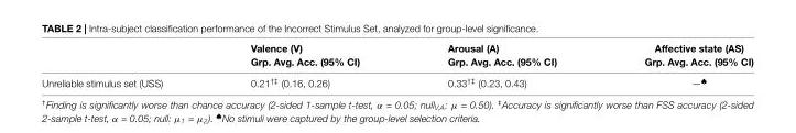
<table><thead><tr><td rowspan="2"></td><td rowspan="2">Valence (V) Grp. Avg. Acc. (95% CI)</td><td rowspan="2">Arousal (A) Grp. Avg. Acc. (95% CI)</td><td rowspan="2">Affective state (AS) Grp. Avg. Acc. (95% CI)</td></tr><tr></tr></thead><tbody><tr><td>Unreliable stimulus set (USS)</td><td>0.21<sup>†‡</sup> (0.16, 0.26)</td><td>0.33<sup>†‡</sup> (0.23, 0.43)</td><td>—<sup>♠</sup></td></tr></tbody></table>